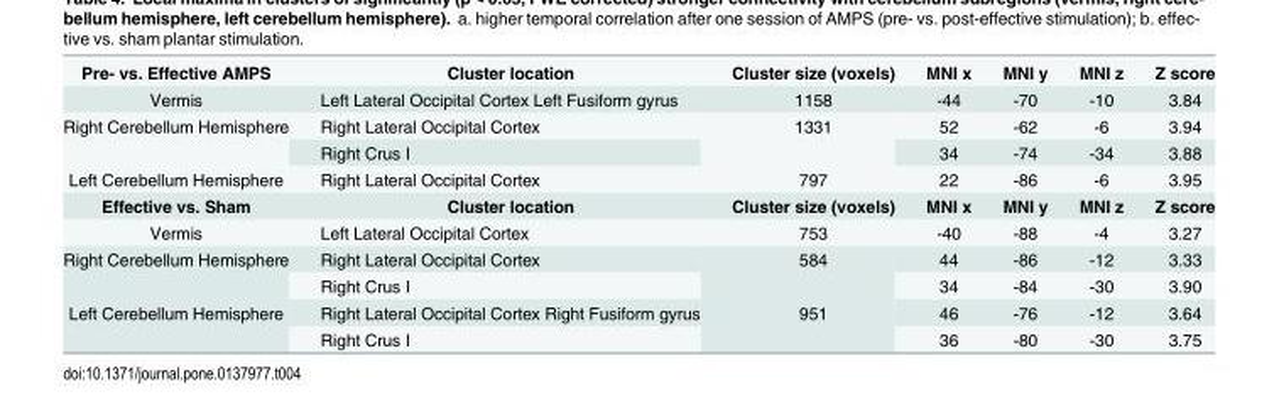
<table><tbody><tr><td>Pre- vs. Effective AMPS</td><td>Cluster location</td><td>Cluster size (voxels)</td><td>MNI x</td><td>MNI y</td><td>MNI z</td><td>Z score</td></tr><tr><td>Vermis</td><td>Left Lateral Occipital Cortex Left Fusiform gyrus</td><td>1158</td><td>-44</td><td>-70</td><td>-10</td><td>3.84</td></tr><tr><td rowspan="2">Right Cerebellum Hemisphere</td><td>Right Lateral Occipital Cortex</td><td rowspan="2">1331</td><td>52</td><td>-62</td><td>-6</td><td>3.94</td></tr><tr><td>Right Crus I</td><td>34</td><td>-74</td><td>-34</td><td>3.88</td></tr><tr><td>Left Cerebellum Hemisphere</td><td>Right Lateral Occipital Cortex</td><td>797</td><td>22</td><td>-86</td><td>-6</td><td>3.95</td></tr><tr><td>Effective vs. Sham</td><td>Cluster location</td><td>Cluster size (voxels)</td><td>MNI x</td><td>MNI y</td><td>MNI z</td><td>Z score</td></tr><tr><td>Vermis</td><td>Left Lateral Occipital Cortex</td><td>753</td><td>-40</td><td>-88</td><td>-4</td><td>3.27</td></tr><tr><td rowspan="2">Right Cerebellum Hemisphere</td><td>Right Lateral Occipital Cortex</td><td rowspan="2">584</td><td>44</td><td>-86</td><td>-12</td><td>3.33</td></tr><tr><td>Right Crus I</td><td>34</td><td>-84</td><td>-30</td><td>3.90</td></tr><tr><td rowspan="2">Left Cerebellum Hemisphere</td><td>Right Lateral Occipital Cortex Right Fusiform gyrus</td><td rowspan="2">951</td><td>46</td><td>-76</td><td>-12</td><td>3.64</td></tr><tr><td>Right Crus I</td><td>36</td><td>-80</td><td>-30</td><td>3.75</td></tr></tbody></table>